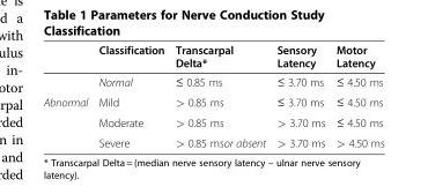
<table><thead><tr><td></td><td>Classification</td><td>Transcarpal Delta*</td><td>Sensory Latency</td><td>Motor Latency</td></tr></thead><tbody><tr><td></td><td>Normal</td><td>≤ 0.85 ms</td><td>≤ 3.70 ms</td><td>≤ 4.50 ms</td></tr><tr><td rowspan="3">Abnormal</td><td>Mild</td><td>&gt; 0.85 ms</td><td>≤ 3.70 ms</td><td>≤ 4.50 ms</td></tr><tr><td>Moderate</td><td>&gt; 0.85 ms</td><td>&gt; 3.70 ms</td><td>≤ 4.50 ms</td></tr><tr><td>Severe</td><td>&gt; 0.85 msor absent</td><td>&gt; 3.70 ms</td><td>&gt; 4.50 ms</td></tr></tbody></table>